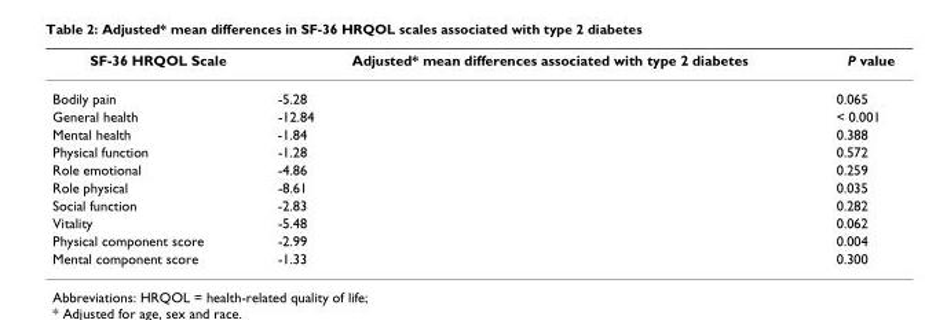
<table><thead><tr><td>SF-36 HRQOL Scale</td><td>Adjusted* mean differences associated with type 2 diabetes</td><td>P value</td></tr></thead><tbody><tr><td>Bodily pain</td><td>-5.28</td><td>0.065</td></tr><tr><td>General health</td><td>-12.84</td><td>&lt; 0.001</td></tr><tr><td>Mental health</td><td>-1.84</td><td>0.388</td></tr><tr><td>Physical function</td><td>-1.28</td><td>0.572</td></tr><tr><td>Role emotional</td><td>-4.86</td><td>0.259</td></tr><tr><td>Role physical</td><td>-8.61</td><td>0.035</td></tr><tr><td>Social function</td><td>-2.83</td><td>0.282</td></tr><tr><td>Vitality</td><td>-5.48</td><td>0.062</td></tr><tr><td>Physical component score</td><td>-2.99</td><td>0.004</td></tr><tr><td>Mental component score</td><td>-1.33</td><td>0.300</td></tr></tbody></table>